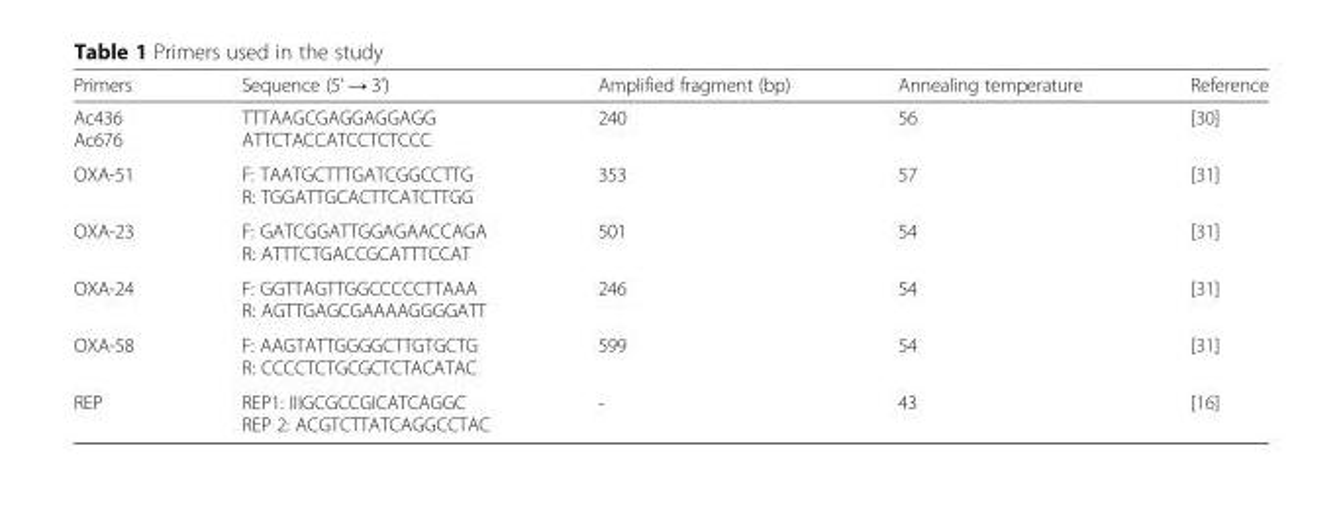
<table><thead><tr><td>Primers</td><td>Sequence (5&#x27; → 3&#x27;)</td><td>Amplified fragment (bp)</td><td>Annealing temperature</td><td>Reference</td></tr></thead><tbody><tr><td>Ac436 Ac676</td><td>TTTAAGCGAGGAGGAGG ATTCTACCATCCTCTCCC</td><td>240</td><td>56</td><td>[30]</td></tr><tr><td>OXA-51</td><td>F: TAATGCTTTGATCGGCCTTG R: TGGATTGCACTTCATCTTGG</td><td>353</td><td>57</td><td>[31]</td></tr><tr><td>OXA-23</td><td>F: GATCGGATTGGAGAACCAGA R: ATTTCTGACCGCATTTCCAT</td><td>501</td><td>54</td><td>[31]</td></tr><tr><td>OXA-24</td><td>F: GGTTAGTTGGCCCCCTTAAA R: AGTTGAGCGAAAAGGGGATT</td><td>246</td><td>54</td><td>[31]</td></tr><tr><td>OXA-58</td><td>F: AAGTATTGGGGCTTGTGCTG R: CCCCTCTGCGCTCTACATAC</td><td>599</td><td>54</td><td>[31]</td></tr><tr><td>REP</td><td>REP1: IIIGCGCCGICATCAGGC REP 2: ACGTCTTATCAGGCCTAC</td><td>-</td><td>43</td><td>[16]</td></tr></tbody></table>